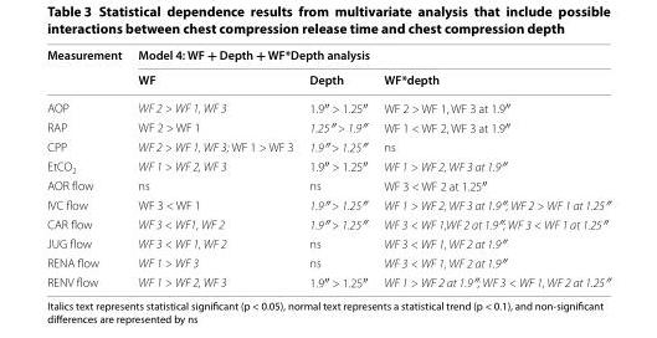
<table><thead><tr><td rowspan="2">Measurement</td><td colspan="3">Model 4: WF + Depth + WF*Depth analysis</td></tr><tr><td>WF</td><td>Depth</td><td>WF*depth</td></tr></thead><tbody><tr><td>AOP</td><td>WF 2 &gt; WF 1, WF 3</td><td>1.9″ &gt; 1.25″</td><td>WF 2 &gt; WF 1, WF 3 at 1.9″</td></tr><tr><td>RAP</td><td>WF 2 &gt; WF 1</td><td>1.25″ &gt; 1.9″</td><td>WF 1 &lt; WF 2, WF 3 at 1.9″</td></tr><tr><td>CPP</td><td>WF 2 &gt; WF 1, WF 3; WF 1 &gt; WF 3</td><td>1.9″ &gt; 1.25″</td><td>ns</td></tr><tr><td>EtCO<sub>2</sub></td><td>WF 1 &gt; WF 2, WF 3</td><td>1.9″ &gt; 1.25″</td><td>WF 1 &gt; WF 2, WF 3 at 1.9″</td></tr><tr><td>AOR flow</td><td>ns</td><td>ns</td><td>WF 3 &lt; WF 2 at 1.25″</td></tr><tr><td>IVC flow</td><td>WF 3 &lt; WF 1</td><td>1.9″ &gt; 1.25″</td><td>WF 1 &gt; WF 2, WF 3 at 1.9″; WF 2 &gt; WF 1 at 1.25″</td></tr><tr><td>CAR flow</td><td>WF 3 &lt; WF1, WF 2</td><td>1.9″ &gt; 1.25″</td><td>WF 3 &lt; WF 1,WF 2 at 1.9″; WF 3 &lt; WF 1 at 1.25″</td></tr><tr><td>JUG flow</td><td>WF 3 &lt; WF 1, WF 2</td><td>ns</td><td>WF 3 &lt; WF 1, WF 2 at 1.9″</td></tr><tr><td>RENA flow</td><td>WF 1 &gt; WF 3</td><td>ns</td><td>WF 3 &lt; WF 1, WF 2 at 1.9″</td></tr><tr><td>RENV flow</td><td>WF 1 &gt; WF 2, WF 3</td><td>1.9″ &gt; 1.25″</td><td>WF 1 &gt; WF 2 at 1.9″; WF 3 &lt; WF 1, WF 2 at 1.25″</td></tr></tbody></table>